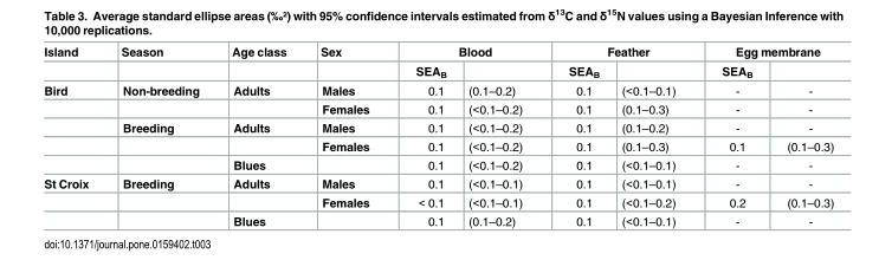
<table><thead><tr><td rowspan="2">Island</td><td rowspan="2">Season</td><td rowspan="2">Age class</td><td rowspan="2">Sex</td><td colspan="2">Blood</td><td colspan="2">Feather</td><td colspan="2">Egg membrane</td></tr><tr><td>SEA<sub>B</sub></td><td></td><td>SEA<sub>B</sub></td><td></td><td>SEA<sub>B</sub></td><td></td></tr></thead><tbody><tr><td rowspan="5">Bird</td><td>Non-breeding</td><td>Adults</td><td>Males</td><td>0.1</td><td>(0.1–0.2)</td><td>0.1</td><td>(&lt;0.1–0.1)</td><td>-</td><td>-</td></tr><tr><td></td><td></td><td>Females</td><td>0.1</td><td>(&lt;0.1–0.2)</td><td>0.1</td><td>(0.1–0.3)</td><td>-</td><td>-</td></tr><tr><td>Breeding</td><td>Adults</td><td>Males</td><td>0.1</td><td>(&lt;0.1–0.2)</td><td>0.1</td><td>(0.1–0.2)</td><td>-</td><td>-</td></tr><tr><td></td><td></td><td>Females</td><td>0.1</td><td>(&lt;0.1–0.2)</td><td>0.1</td><td>(0.1–0.3)</td><td>0.1</td><td>(0.1–0.3)</td></tr><tr><td></td><td>Blues</td><td></td><td>0.1</td><td>(&lt;0.1–0.2)</td><td>0.1</td><td>(&lt;0.1–0.1)</td><td>-</td><td>-</td></tr><tr><td rowspan="3">St Croix</td><td>Breeding</td><td>Adults</td><td>Males</td><td>0.1</td><td>(&lt;0.1–0.1)</td><td>0.1</td><td>(&lt;0.1–0.1)</td><td>-</td><td>-</td></tr><tr><td></td><td></td><td>Females</td><td>&lt; 0.1</td><td>(&lt;0.1–0.1)</td><td>0.1</td><td>(&lt;0.1–0.2)</td><td>0.2</td><td>(0.1–0.3)</td></tr><tr><td></td><td>Blues</td><td></td><td>0.1</td><td>(0.1–0.2)</td><td>0.1</td><td>(&lt;0.1–0.1)</td><td>-</td><td>-</td></tr></tbody></table>